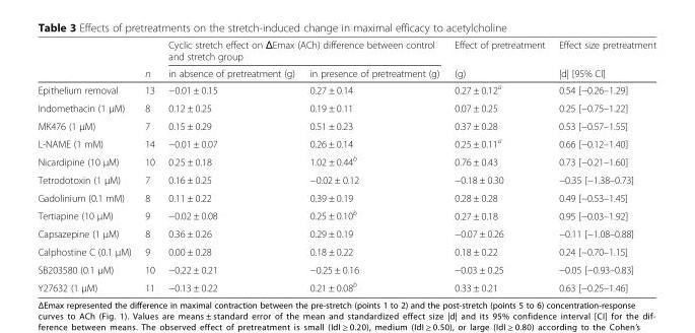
<table><thead><tr><td rowspan="2"></td><td rowspan="2">n</td><td colspan="2">Cyclic stretch effect on ΔEmax (ACh) difference between control and stretch group</td><td rowspan="2">Effect of pretreatment (g)</td><td rowspan="2">Effect size pretreatment |d| [95% CI]</td></tr><tr><td>in absence of pretreatment (g)</td><td>in presence of pretreatment (g)</td></tr></thead><tbody><tr><td>Epithelium removal</td><td>13</td><td>−0.01 ± 0.15</td><td>0.27 ± 0.14</td><td>0.27 ± 0.12<sup>a</sup></td><td>0.54 [−0.26–1.29]</td></tr><tr><td>Indomethacin (1 μM)</td><td>8</td><td>0.12 ± 0.25</td><td>0.19 ± 0.11</td><td>0.07 ± 0.25</td><td>0.25 [−0.75–1.22]</td></tr><tr><td>MK476 (1 μM)</td><td>7</td><td>0.15 ± 0.29</td><td>0.51 ± 0.23</td><td>0.37 ± 0.28</td><td>0.53 [−0.57–1.55]</td></tr><tr><td>L-NAME (1 mM)</td><td>14</td><td>−0.01 ± 0.07</td><td>0.26 ± 0.14</td><td>0.25 ± 0.11<sup>a</sup></td><td>0.66 [−0.12–1.40]</td></tr><tr><td>Nicardipine (10 μM)</td><td>10</td><td>0.25 ± 0.18</td><td>1.02 ± 0.44<sup>b</sup></td><td>0.76 ± 0.43</td><td>0.73 [−0.21–1.60]</td></tr><tr><td>Tetrodotoxin (1 μM)</td><td>7</td><td>0.16 ± 0.25</td><td>−0.02 ± 0.12</td><td>−0.18 ± 0.30</td><td>−0.35 [−1.38–0.73]</td></tr><tr><td>Gadolinium (0.1 mM)</td><td>8</td><td>0.11 ± 0.22</td><td>0.39 ± 0.19</td><td>0.28 ± 0.28</td><td>0.49 [−0.53–1.45]</td></tr><tr><td>Tertiapine (10 μM)</td><td>9</td><td>−0.02 ± 0.08</td><td>0.25 ± 0.10<sup>b</sup></td><td>0.27 ± 0.18</td><td>0.95 [−0.03–1.92]</td></tr><tr><td>Capsazepine (1 μM)</td><td>8</td><td>0.36 ± 0.26</td><td>0.29 ± 0.19</td><td>−0.07 ± 0.26</td><td>−0.11 [−1.08–0.88]</td></tr><tr><td>Calphostine C (0.1 μM)</td><td>9</td><td>0.00 ± 0.28</td><td>0.18 ± 0.22</td><td>0.18 ± 0.22</td><td>0.24 [−0.70–1.15]</td></tr><tr><td>SB203580 (0.1 μM)</td><td>10</td><td>−0.22 ± 0.21</td><td>−0.25 ± 0.16</td><td>−0.03 ± 0.25</td><td>−0.05 [−0.93–0.83]</td></tr><tr><td>Y27632 (1 μM)</td><td>11</td><td>−0.13 ± 0.22</td><td>0.21 ± 0.08<sup>b</sup></td><td>0.33 ± 0.21</td><td>0.63 [−0.25–1.46]</td></tr></tbody></table>